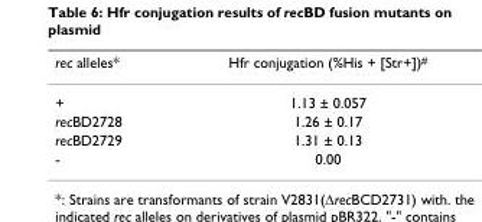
<table><thead><tr><td>rec alleles*</td><td>Hfr conjugation (%His + [Str+])<sup>#</sup></td></tr></thead><tbody><tr><td>+</td><td>1.13 ± 0.057</td></tr><tr><td>recBD2728</td><td>1.26 ± 0.17</td></tr><tr><td>recBD2729</td><td>1.31 ± 0.13</td></tr><tr><td>-</td><td>0.00</td></tr></tbody></table>